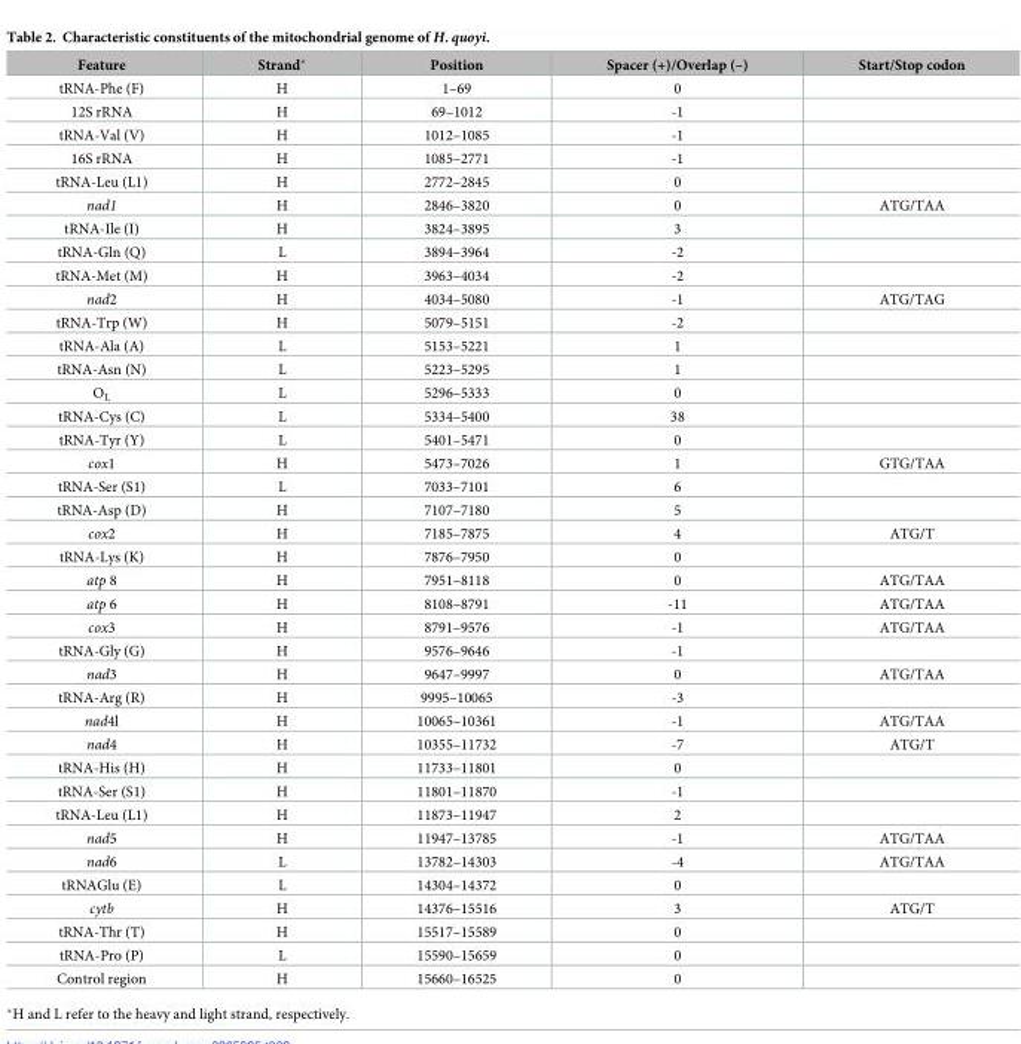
<table><thead><tr><td>Feature</td><td>Strand*</td><td>Position</td><td>Spacer (+)/Overlap (–)</td><td>Start/Stop codon</td></tr></thead><tbody><tr><td>tRNA-Phe (F)</td><td>H</td><td>1–69</td><td>0</td><td></td></tr><tr><td>12S rRNA</td><td>H</td><td>69–1012</td><td>-1</td><td></td></tr><tr><td>tRNA-Val (V)</td><td>H</td><td>1012–1085</td><td>-1</td><td></td></tr><tr><td>16S rRNA</td><td>H</td><td>1085–2771</td><td>-1</td><td></td></tr><tr><td>tRNA-Leu (L1)</td><td>H</td><td>2772–2845</td><td>0</td><td></td></tr><tr><td>nad1</td><td>H</td><td>2846–3820</td><td>0</td><td>ATG/TAA</td></tr><tr><td>tRNA-Ile (I)</td><td>H</td><td>3824–3895</td><td>3</td><td></td></tr><tr><td>tRNA-Gln (Q)</td><td>L</td><td>3894–3964</td><td>-2</td><td></td></tr><tr><td>tRNA-Met (M)</td><td>H</td><td>3963–4034</td><td>-2</td><td></td></tr><tr><td>nad2</td><td>H</td><td>4034–5080</td><td>-1</td><td>ATG/TAG</td></tr><tr><td>tRNA-Trp (W)</td><td>H</td><td>5079–5151</td><td>-2</td><td></td></tr><tr><td>tRNA-Ala (A)</td><td>L</td><td>5153–5221</td><td>1</td><td></td></tr><tr><td>tRNA-Asn (N)</td><td>L</td><td>5223–5295</td><td>1</td><td></td></tr><tr><td>O<sub>L</sub></td><td>L</td><td>5296–5333</td><td>0</td><td></td></tr><tr><td>tRNA-Cys (C)</td><td>L</td><td>5334–5400</td><td>38</td><td></td></tr><tr><td>tRNA-Tyr (Y)</td><td>L</td><td>5401–5471</td><td>0</td><td></td></tr><tr><td>cox1</td><td>H</td><td>5473–7026</td><td>1</td><td>GTG/TAA</td></tr><tr><td>tRNA-Ser (S1)</td><td>L</td><td>7033–7101</td><td>6</td><td></td></tr><tr><td>tRNA-Asp (D)</td><td>H</td><td>7107–7180</td><td>5</td><td></td></tr><tr><td>cox2</td><td>H</td><td>7185–7875</td><td>4</td><td>ATG/T</td></tr><tr><td>tRNA-Lys (K)</td><td>H</td><td>7876–7950</td><td>0</td><td></td></tr><tr><td>atp 8</td><td>H</td><td>7951–8118</td><td>0</td><td>ATG/TAA</td></tr><tr><td>atp 6</td><td>H</td><td>8108–8791</td><td>-11</td><td>ATG/TAA</td></tr><tr><td>cox3</td><td>H</td><td>8791–9576</td><td>-1</td><td>ATG/TAA</td></tr><tr><td>tRNA-Gly (G)</td><td>H</td><td>9576–9646</td><td>-1</td><td></td></tr><tr><td>nad3</td><td>H</td><td>9647–9997</td><td>0</td><td>ATG/TAA</td></tr><tr><td>tRNA-Arg (R)</td><td>H</td><td>9995–10065</td><td>-3</td><td></td></tr><tr><td>nad4l</td><td>H</td><td>10065–10361</td><td>-1</td><td>ATG/TAA</td></tr><tr><td>nad4</td><td>H</td><td>10355–11732</td><td>-7</td><td>ATG/T</td></tr><tr><td>tRNA-His (H)</td><td>H</td><td>11733–11801</td><td>0</td><td></td></tr><tr><td>tRNA-Ser (S1)</td><td>H</td><td>11801–11870</td><td>-1</td><td></td></tr><tr><td>tRNA-Leu (L1)</td><td>H</td><td>11873–11947</td><td>2</td><td></td></tr><tr><td>nad5</td><td>H</td><td>11947–13785</td><td>-1</td><td>ATG/TAA</td></tr><tr><td>nad6</td><td>L</td><td>13782–14303</td><td>-4</td><td>ATG/TAA</td></tr><tr><td>tRNAGlu (E)</td><td>L</td><td>14304–14372</td><td>0</td><td></td></tr><tr><td>cytb</td><td>H</td><td>14376–15516</td><td>3</td><td>ATG/T</td></tr><tr><td>tRNA-Thr (T)</td><td>H</td><td>15517–15589</td><td>0</td><td></td></tr><tr><td>tRNA-Pro (P)</td><td>L</td><td>15590–15659</td><td>0</td><td></td></tr><tr><td>Control region</td><td>H</td><td>15660–16525</td><td>0</td><td></td></tr></tbody></table>